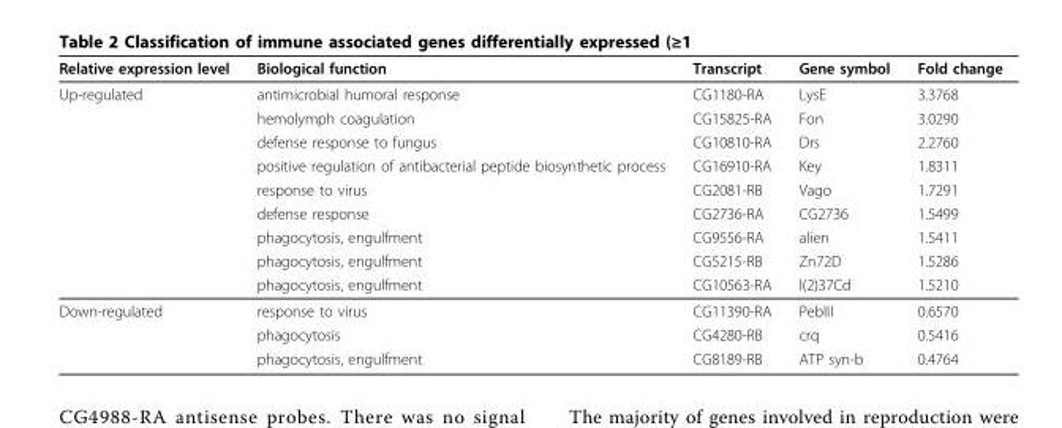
<table><thead><tr><td>Relative expression level</td><td>Biological function</td><td>Transcript</td><td>Gene symbol</td><td>Fold change</td></tr></thead><tbody><tr><td rowspan="9">Up-regulated</td><td>antimicrobial humoral response</td><td>CG1180-RA</td><td>LysE</td><td>3.3768</td></tr><tr><td>hemolymph coagulation</td><td>CG15825-RA</td><td>Fon</td><td>3.0290</td></tr><tr><td>defense response to fungus</td><td>CG10810-RA</td><td>Drs</td><td>2.2760</td></tr><tr><td>positive regulation of antibacterial peptide biosynthetic process</td><td>CG16910-RA</td><td>Key</td><td>1.8311</td></tr><tr><td>response to virus</td><td>CG2081-RB</td><td>Vago</td><td>1.7291</td></tr><tr><td>defense response</td><td>CG2736-RA</td><td>CG2736</td><td>1.5499</td></tr><tr><td>phagocytosis, engulfment</td><td>CG9556-RA</td><td>alien</td><td>1.5411</td></tr><tr><td>phagocytosis, engulfment</td><td>CG5215-RB</td><td>Zn72D</td><td>1.5286</td></tr><tr><td>phagocytosis, engulfment</td><td>CG10563-RA</td><td>l(2)37Cd</td><td>1.5210</td></tr><tr><td rowspan="3">Down-regulated</td><td>response to virus</td><td>CG11390-RA</td><td>PebIII</td><td>0.6570</td></tr><tr><td>phagocytosis</td><td>CG4280-RB</td><td>crq</td><td>0.5416</td></tr><tr><td>phagocytosis, engulfment</td><td>CG8189-RB</td><td>ATP syn-b</td><td>0.4764</td></tr></tbody></table>